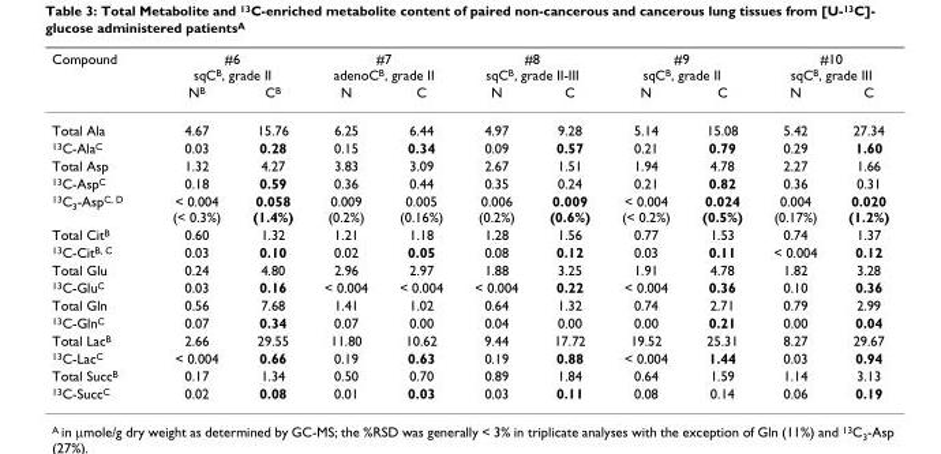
<table><thead><tr><td rowspan="2">Compound</td><td colspan="2">#6 sqC<sup>B</sup>, grade II</td><td colspan="2">#7 adenoC<sup>B</sup>, grade II</td><td colspan="2">#8 sqC<sup>B</sup>, grade II-III</td><td colspan="2">#9 sqC<sup>B</sup>, grade II</td><td colspan="2">#10 sqC<sup>B</sup>, grade III</td></tr><tr><td>N<sup>B</sup></td><td>C<sup>B</sup></td><td>N</td><td>C</td><td>N</td><td>C</td><td>N</td><td>C</td><td>N</td><td>C</td></tr></thead><tbody><tr><td>Total Ala</td><td>4.67</td><td>15.76</td><td>6.25</td><td>6.44</td><td>4.97</td><td>9.28</td><td>5.14</td><td>15.08</td><td>5.42</td><td>27.34</td></tr><tr><td><sup>13</sup>C-Ala<sup>C</sup></td><td>0.03</td><td>0.28</td><td>0.15</td><td>0.34</td><td>0.09</td><td>0.57</td><td>0.21</td><td>0.79</td><td>0.29</td><td>1.60</td></tr><tr><td>Total Asp</td><td>1.32</td><td>4.27</td><td>3.83</td><td>3.09</td><td>2.67</td><td>1.51</td><td>1.94</td><td>4.78</td><td>2.27</td><td>1.66</td></tr><tr><td><sup>13</sup>C-Asp<sup>C</sup></td><td>0.18</td><td>0.59</td><td>0.36</td><td>0.44</td><td>0.35</td><td>0.24</td><td>0.21</td><td>0.82</td><td>0.36</td><td>0.31</td></tr><tr><td><sup>13</sup>C<sub>3</sub>-Asp<sup>C, D</sup></td><td>&lt; 0.004 (&lt; 0.3%)</td><td>0.058 (1.4%)</td><td>0.009 (0.2%)</td><td>0.005 (0.16%)</td><td>0.006 (0.2%)</td><td>0.009 (0.6%)</td><td>&lt; 0.004 (&lt; 0.2%)</td><td>0.024 (0.5%)</td><td>0.004 (0.17%)</td><td>0.020 (1.2%)</td></tr><tr><td>Total Cit<sup>B</sup></td><td>0.60</td><td>1.32</td><td>1.21</td><td>1.18</td><td>1.28</td><td>1.56</td><td>0.77</td><td>1.53</td><td>0.74</td><td>1.37</td></tr><tr><td><sup>13</sup>C-Cit<sup>B, C</sup></td><td>0.03</td><td>0.10</td><td>0.02</td><td>0.05</td><td>0.08</td><td>0.12</td><td>0.03</td><td>0.11</td><td>&lt; 0.004</td><td>0.12</td></tr><tr><td>Total Glu</td><td>0.24</td><td>4.80</td><td>2.96</td><td>2.97</td><td>1.88</td><td>3.25</td><td>1.91</td><td>4.78</td><td>1.82</td><td>3.28</td></tr><tr><td><sup>13</sup>C-Glu<sup>C</sup></td><td>0.03</td><td>0.16</td><td>&lt; 0.004</td><td>&lt; 0.004</td><td>&lt; 0.004</td><td>0.22</td><td>&lt; 0.004</td><td>0.36</td><td>0.10</td><td>0.36</td></tr><tr><td>Total Gln</td><td>0.56</td><td>7.68</td><td>1.41</td><td>1.02</td><td>0.64</td><td>1.32</td><td>0.74</td><td>2.71</td><td>0.79</td><td>2.99</td></tr><tr><td><sup>13</sup>C-Gln<sup>C</sup></td><td>0.07</td><td>0.34</td><td>0.07</td><td>0.00</td><td>0.04</td><td>0.00</td><td>0.00</td><td>0.21</td><td>0.00</td><td>0.04</td></tr><tr><td>Total Lac<sup>B</sup></td><td>2.66</td><td>29.55</td><td>11.80</td><td>10.62</td><td>9.44</td><td>17.72</td><td>19.52</td><td>25.31</td><td>8.27</td><td>29.67</td></tr><tr><td><sup>13</sup>C-Lac<sup>C</sup></td><td>&lt; 0.004</td><td>0.66</td><td>0.19</td><td>0.63</td><td>0.19</td><td>0.88</td><td>&lt; 0.004</td><td>1.44</td><td>0.03</td><td>0.94</td></tr><tr><td>Total Succ<sup>B</sup></td><td>0.17</td><td>1.34</td><td>0.50</td><td>0.70</td><td>0.89</td><td>1.84</td><td>0.64</td><td>1.59</td><td>1.14</td><td>3.13</td></tr><tr><td><sup>13</sup>C-Succ<sup>C</sup></td><td>0.02</td><td>0.08</td><td>0.01</td><td>0.03</td><td>0.03</td><td>0.11</td><td>0.08</td><td>0.14</td><td>0.06</td><td>0.19</td></tr></tbody></table>